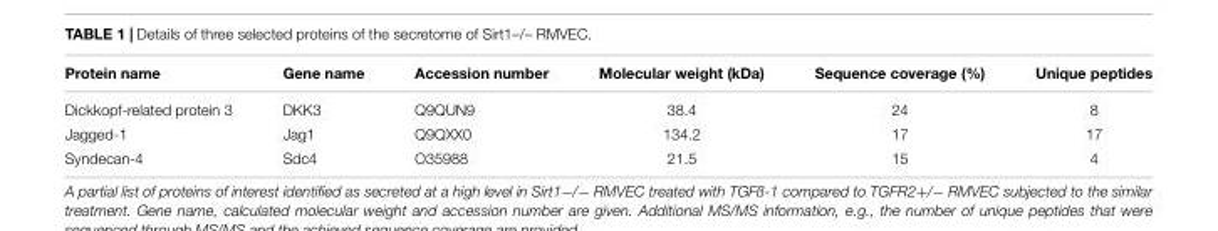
<table><thead><tr><td>Protein name</td><td>Gene name</td><td>Accession number</td><td>Molecular weight (kDa)</td><td>Sequence coverage (%)</td><td>Unique peptides</td></tr></thead><tbody><tr><td>Dickkopf-related protein 3</td><td>DKK3</td><td>Q9QUN9</td><td>38.4</td><td>24</td><td>8</td></tr><tr><td>Jagged-1</td><td>Jag1</td><td>Q9QXX0</td><td>134.2</td><td>17</td><td>17</td></tr><tr><td>Syndecan-4</td><td>Sdc4</td><td>O35988</td><td>21.5</td><td>15</td><td>4</td></tr></tbody></table>